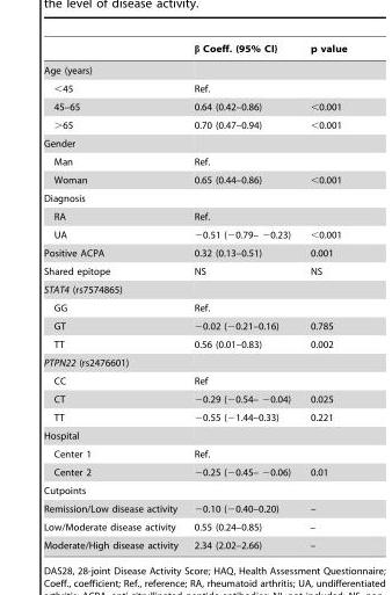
<table><thead><tr><td></td><td>β Coeff. (95% CI)</td><td>p value</td></tr></thead><tbody><tr><td colspan="3">Age (years)</td></tr><tr><td>&lt;45</td><td>Ref.</td><td></td></tr><tr><td>45–65</td><td>0.64 (0.42–0.86)</td><td>&lt;0.001</td></tr><tr><td>&gt;65</td><td>0.70 (0.47–0.94)</td><td>&lt;0.001</td></tr><tr><td colspan="3">Gender</td></tr><tr><td>Man</td><td>Ref.</td><td></td></tr><tr><td>Woman</td><td>0.65 (0.44–0.86)</td><td>&lt;0.001</td></tr><tr><td colspan="3">Diagnosis</td></tr><tr><td>RA</td><td>Ref.</td><td></td></tr><tr><td>UA</td><td>−0.51 (−0.79– −0.23)</td><td>&lt;0.001</td></tr><tr><td>Positive ACPA</td><td>0.32 (0.13–0.51)</td><td>0.001</td></tr><tr><td>Shared epitope</td><td>NS</td><td>NS</td></tr><tr><td colspan="3">STAT4 (rs7574865)</td></tr><tr><td>GG</td><td>Ref.</td><td></td></tr><tr><td>GT</td><td>−0.02 (−0.21–0.16)</td><td>0.785</td></tr><tr><td>TT</td><td>0.56 (0.01–0.83)</td><td>0.002</td></tr><tr><td colspan="3">PTPN22 (rs2476601)</td></tr><tr><td>CC</td><td>Ref</td><td></td></tr><tr><td>CT</td><td>−0.29 (−0.54– −0.04)</td><td>0.025</td></tr><tr><td>TT</td><td>−0.55 (−1.44–0.33)</td><td>0.221</td></tr><tr><td colspan="3">Hospital</td></tr><tr><td>Center 1</td><td>Ref.</td><td></td></tr><tr><td>Center 2</td><td>−0.25 (−0.45– −0.06)</td><td>0.01</td></tr><tr><td colspan="3">Cutpoints</td></tr><tr><td>Remission/Low disease activity</td><td>−0.10 (−0.40–0.20)</td><td>–</td></tr><tr><td>Low/Moderate disease activity</td><td>0.55 (0.24–0.85)</td><td>–</td></tr><tr><td>Moderate/High disease activity</td><td>2.34 (2.02–2.66)</td><td>–</td></tr></tbody></table>